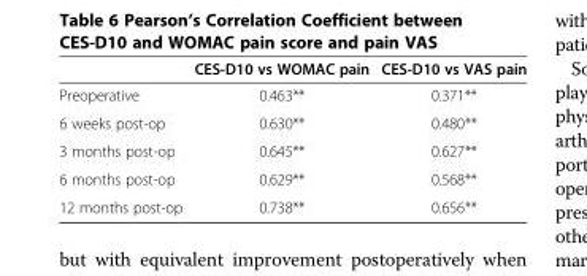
<table><thead><tr><td></td><td>CES-D10 vs WOMAC pain</td><td>CES-D10 vs VAS pain</td></tr></thead><tbody><tr><td>Preoperative</td><td>0.463**</td><td>0.371**</td></tr><tr><td>6 weeks post-op</td><td>0.630**</td><td>0.480**</td></tr><tr><td>3 months post-op</td><td>0.645**</td><td>0.627**</td></tr><tr><td>6 months post-op</td><td>0.629**</td><td>0.568**</td></tr><tr><td>12 months post-op</td><td>0.738**</td><td>0.656**</td></tr></tbody></table>